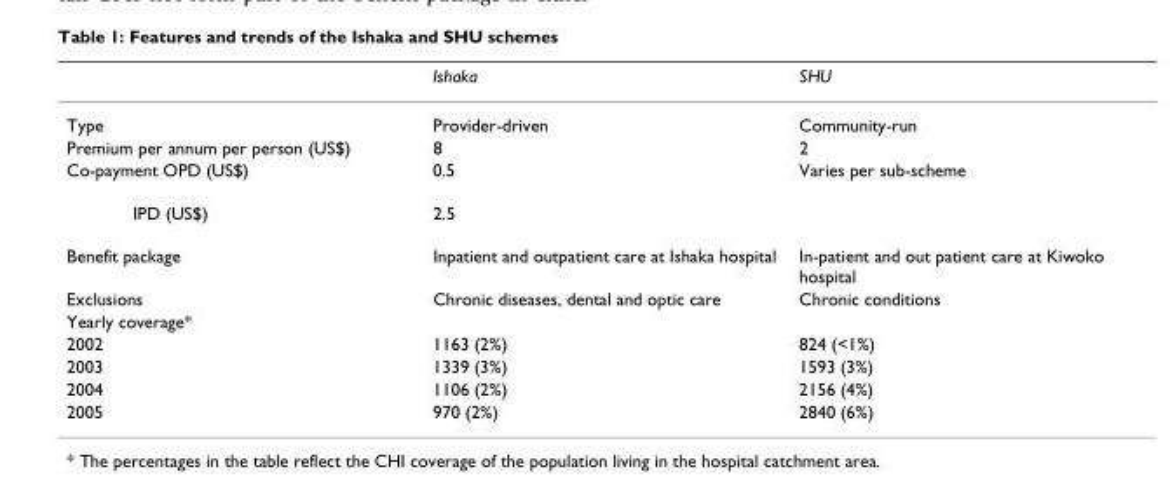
<table><thead><tr><td></td><td>Ishaka</td><td>SHU</td></tr></thead><tbody><tr><td>Type</td><td>Provider-driven</td><td>Community-run</td></tr><tr><td>Premium per annum per person (US$)</td><td>8</td><td>2</td></tr><tr><td>Co-payment OPD (US$)</td><td>0.5</td><td>Varies per sub-scheme</td></tr><tr><td>IPD (US$)</td><td>2.5</td><td></td></tr><tr><td>Benefit package</td><td>Inpatient and outpatient care at Ishaka hospital</td><td>In-patient and out patient care at Kiwoko hospital</td></tr><tr><td>Exclusions</td><td>Chronic diseases, dental and optic care</td><td>Chronic conditions</td></tr><tr><td colspan="3">Yearly coverage*</td></tr><tr><td>2002</td><td>1163 (2%)</td><td>824 (&lt;1%)</td></tr><tr><td>2003</td><td>1339 (3%)</td><td>1593 (3%)</td></tr><tr><td>2004</td><td>1106 (2%)</td><td>2156 (4%)</td></tr><tr><td>2005</td><td>970 (2%)</td><td>2840 (6%)</td></tr></tbody></table>